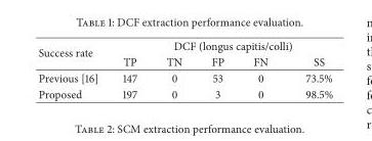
<table><thead><tr><td rowspan="2">Success rate</td><td colspan="5">DCF (longus capitis/colli)</td></tr><tr><td>TP</td><td>TN</td><td>FP</td><td>FN</td><td>SS</td></tr></thead><tbody><tr><td>Previous [16]</td><td>147</td><td>0</td><td>53</td><td>0</td><td>73.5%</td></tr><tr><td>Proposed</td><td>197</td><td>0</td><td>3</td><td>0</td><td>98.5%</td></tr></tbody></table>